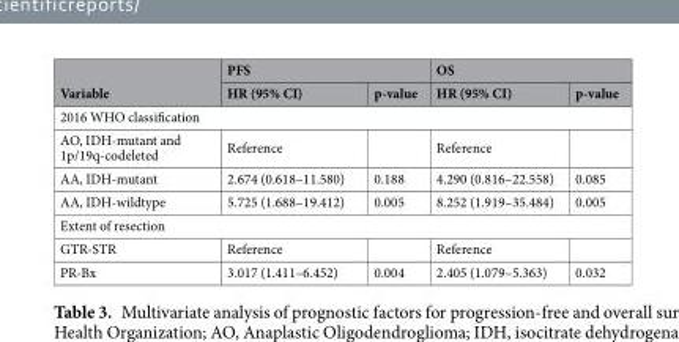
<table><thead><tr><td rowspan="2">Variable</td><td colspan="2">PFS</td><td colspan="2">OS</td></tr><tr><td>HR (95% CI)</td><td>p-value</td><td>HR (95% CI)</td><td>p-value</td></tr></thead><tbody><tr><td colspan="5">2016 WHO classification</td></tr><tr><td>AO, IDH-mutant and 1p/19q-codeleted</td><td>Reference</td><td></td><td>Reference</td><td></td></tr><tr><td>AA, IDH-mutant</td><td>2.674 (0.618–11.580)</td><td>0.188</td><td>4.290 (0.816–22.558)</td><td>0.085</td></tr><tr><td>AA, IDH-wildtype</td><td>5.725 (1.688–19.412)</td><td>0.005</td><td>8.252 (1.919–35.484)</td><td>0.005</td></tr><tr><td colspan="5">Extent of resection</td></tr><tr><td>GTR-STR</td><td>Reference</td><td></td><td>Reference</td><td></td></tr><tr><td>PR-Bx</td><td>3.017 (1.411–6.452)</td><td>0.004</td><td>2.405 (1.079–5.363)</td><td>0.032</td></tr></tbody></table>